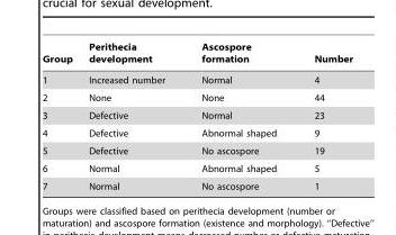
<table><thead><tr><td>Group</td><td>Perithecia development</td><td>Ascospore formation</td><td>Number</td></tr></thead><tbody><tr><td>1</td><td>Increased number</td><td>Normal</td><td>4</td></tr><tr><td>2</td><td>None</td><td>None</td><td>44</td></tr><tr><td>3</td><td>Defective</td><td>Normal</td><td>23</td></tr><tr><td>4</td><td>Defective</td><td>Abnormal shaped</td><td>9</td></tr><tr><td>5</td><td>Defective</td><td>No ascospore</td><td>19</td></tr><tr><td>6</td><td>Normal</td><td>Abnormal shaped</td><td>5</td></tr><tr><td>7</td><td>Normal</td><td>No ascospore</td><td>1</td></tr></tbody></table>